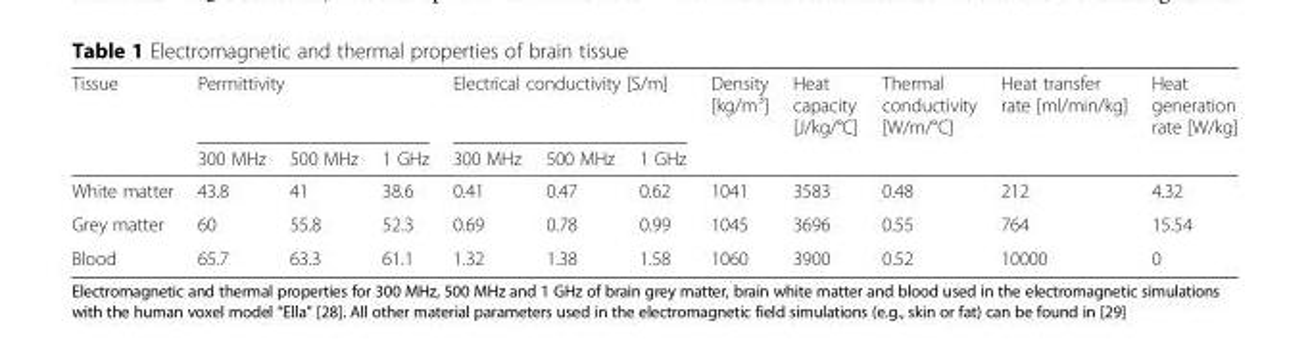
<table><thead><tr><td rowspan="2">Tissue</td><td colspan="3">Permittivity</td><td colspan="3">Electrical conductivity [S/m]</td><td rowspan="2">Density [kg/m<sup>3</sup>]</td><td rowspan="2">Heat capacity [J/kg/°C]</td><td rowspan="2">Thermal conductivity [W/m/°C]</td><td rowspan="2">Heat transfer rate [ml/min/kg]</td><td rowspan="2">Heat generation rate [W/kg]</td></tr><tr><td>300 MHz</td><td>500 MHz</td><td>1 GHz</td><td>300 MHz</td><td>500 MHz</td><td>1 GHz</td></tr></thead><tbody><tr><td>White matter</td><td>43.8</td><td>41</td><td>38.6</td><td>0.41</td><td>0.47</td><td>0.62</td><td>1041</td><td>3583</td><td>0.48</td><td>212</td><td>4.32</td></tr><tr><td>Grey matter</td><td>60</td><td>55.8</td><td>52.3</td><td>0.69</td><td>0.78</td><td>0.99</td><td>1045</td><td>3696</td><td>0.55</td><td>764</td><td>15.54</td></tr><tr><td>Blood</td><td>65.7</td><td>63.3</td><td>61.1</td><td>1.32</td><td>1.38</td><td>1.58</td><td>1060</td><td>3900</td><td>0.52</td><td>10000</td><td>0</td></tr></tbody></table>